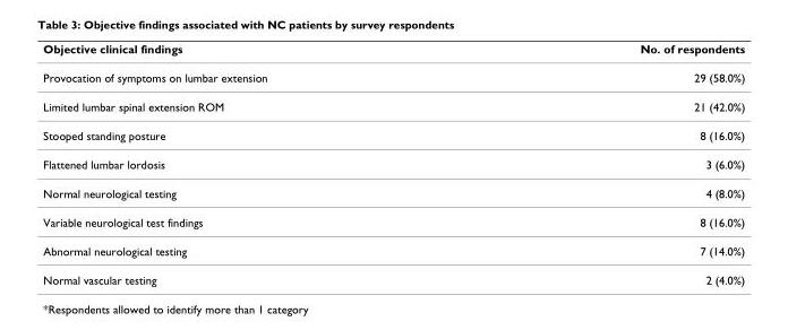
<table><thead><tr><td>Objective clinical findings</td><td>No. of respondents</td></tr></thead><tbody><tr><td>Provocation of symptoms on lumbar extension</td><td>29 (58.0%)</td></tr><tr><td>Limited lumbar spinal extension ROM</td><td>21 (42.0%)</td></tr><tr><td>Stooped standing posture</td><td>8 (16.0%)</td></tr><tr><td>Flattened lumbar lordosis</td><td>3 (6.0%)</td></tr><tr><td>Normal neurological testing</td><td>4 (8.0%)</td></tr><tr><td>Variable neurological test findings</td><td>8 (16.0%)</td></tr><tr><td>Abnormal neurological testing</td><td>7 (14.0%)</td></tr><tr><td>Normal vascular testing</td><td>2 (4.0%)</td></tr></tbody></table>